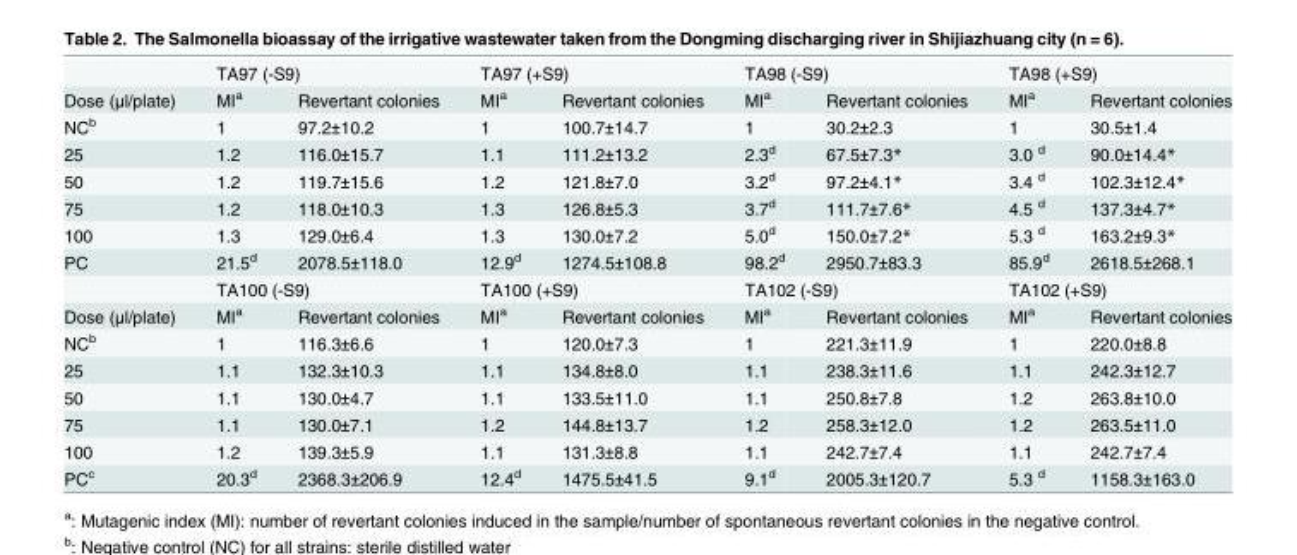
<table><thead><tr><td rowspan="2">Dose (μl/plate)</td><td colspan="2">TA97 (-S9)</td><td colspan="2">TA97 (+S9)</td><td colspan="2">TA98 (-S9)</td><td colspan="2">TA98 (+S9)</td></tr><tr><td>MI<sup>a</sup></td><td>Revertant colonies</td><td>MI<sup>a</sup></td><td>Revertant colonies</td><td>MI<sup>a</sup></td><td>Revertant colonies</td><td>MI<sup>a</sup></td><td>Revertant colonies</td></tr></thead><tbody><tr><td>NC<sup>b</sup></td><td>1</td><td>97.2±10.2</td><td>1</td><td>100.7±14.7</td><td>1</td><td>30.2±2.3</td><td>1</td><td>30.5±1.4</td></tr><tr><td>25</td><td>1.2</td><td>116.0±15.7</td><td>1.1</td><td>111.2±13.2</td><td>2.3<sup>d</sup></td><td>67.5±7.3*</td><td>3.0 <sup>d</sup></td><td>90.0±14.4*</td></tr><tr><td>50</td><td>1.2</td><td>119.7±15.6</td><td>1.2</td><td>121.8±7.0</td><td>3.2<sup>d</sup></td><td>97.2±4.1*</td><td>3.4 <sup>d</sup></td><td>102.3±12.4*</td></tr><tr><td>75</td><td>1.2</td><td>118.0±10.3</td><td>1.3</td><td>126.8±5.3</td><td>3.7<sup>d</sup></td><td>111.7±7.6*</td><td>4.5 <sup>d</sup></td><td>137.3±4.7*</td></tr><tr><td>100</td><td>1.3</td><td>129.0±6.4</td><td>1.3</td><td>130.0±7.2</td><td>5.0<sup>d</sup></td><td>150.0±7.2*</td><td>5.3 <sup>d</sup></td><td>163.2±9.3*</td></tr><tr><td rowspan="2">PC</td><td>21.5<sup>d</sup></td><td>2078.5±118.0</td><td>12.9<sup>d</sup></td><td>1274.5±108.8</td><td>98.2<sup>d</sup></td><td>2950.7±83.3</td><td>85.9<sup>d</sup></td><td>2618.5±268.1</td></tr><tr><td colspan="2">TA100 (-S9)</td><td colspan="2">TA100 (+S9)</td><td colspan="2">TA102 (-S9)</td><td colspan="2">TA102 (+S9)</td></tr><tr><td>Dose (μl/plate)</td><td>MI<sup>a</sup></td><td>Revertant colonies</td><td>MI<sup>a</sup></td><td>Revertant colonies</td><td>MI<sup>a</sup></td><td>Revertant colonies</td><td>MI<sup>a</sup></td><td>Revertant colonies</td></tr><tr><td>NC<sup>b</sup></td><td>1</td><td>116.3±6.6</td><td>1</td><td>120.0±7.3</td><td>1</td><td>221.3±11.9</td><td>1</td><td>220.0±8.8</td></tr><tr><td>25</td><td>1.1</td><td>132.3±10.3</td><td>1.1</td><td>134.8±8.0</td><td>1.1</td><td>238.3±11.6</td><td>1.1</td><td>242.3±12.7</td></tr><tr><td>50</td><td>1.1</td><td>130.0±4.7</td><td>1.1</td><td>133.5±11.0</td><td>1.1</td><td>250.8±7.8</td><td>1.2</td><td>263.8±10.0</td></tr><tr><td>75</td><td>1.1</td><td>130.0±7.1</td><td>1.2</td><td>144.8±13.7</td><td>1.2</td><td>258.3±12.0</td><td>1.2</td><td>263.5±11.0</td></tr><tr><td>100</td><td>1.2</td><td>139.3±5.9</td><td>1.1</td><td>131.3±8.8</td><td>1.1</td><td>242.7±7.4</td><td>1.1</td><td>242.7±7.4</td></tr><tr><td>PC<sup>c</sup></td><td>20.3<sup>d</sup></td><td>2368.3±206.9</td><td>12.4<sup>d</sup></td><td>1475.5±41.5</td><td>9.1<sup>d</sup></td><td>2005.3±120.7</td><td>5.3 <sup>d</sup></td><td>1158.3±163.0</td></tr></tbody></table>